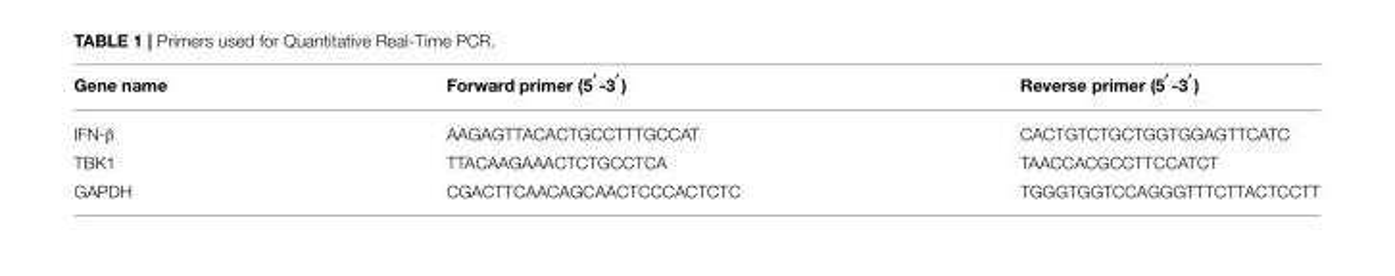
<table><thead><tr><td>Gene name</td><td>Forward primer (5 ′ -3 ′)</td><td>Reverse primer (5 ′ -3 ′ )</td></tr></thead><tbody><tr><td>IFN-β</td><td>AAGAGTTACACTGCCTTTGCCAT</td><td>CACTGTCTGCTGGTGGAGTTCATC</td></tr><tr><td>TBK1</td><td>TTACAAGAAACTCTGCCTCA</td><td>TAACCACGCCTTCCATCT</td></tr><tr><td>GAPDH</td><td>CGACTTCAACAGCAACTCCCACTCTC</td><td>TGGGTGGTCCAGGGTTTCTTACTCCTT</td></tr></tbody></table>